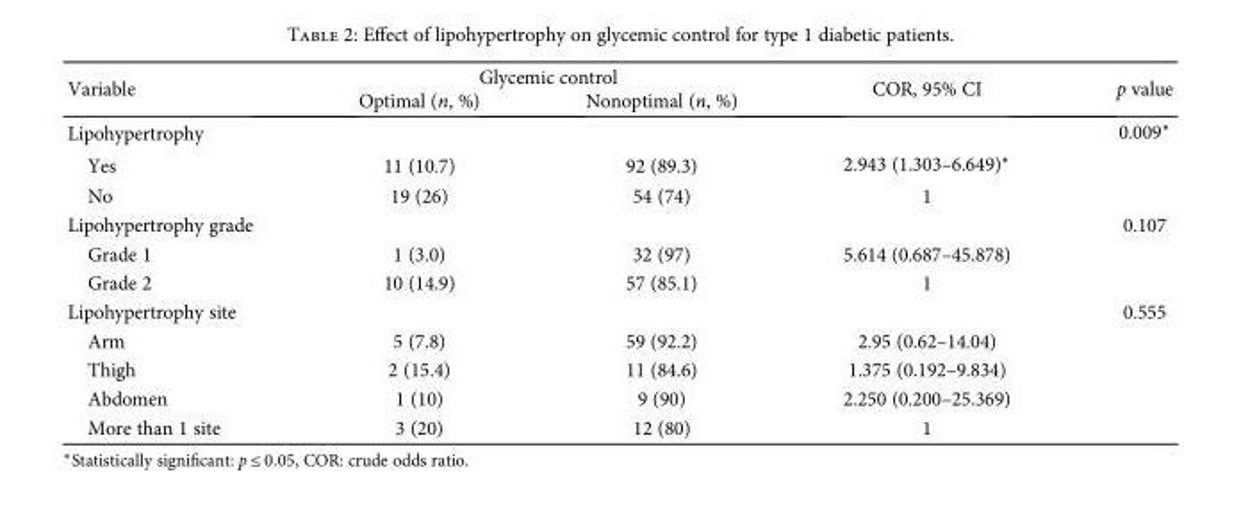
<table><thead><tr><td rowspan="2">Variable</td><td colspan="2">Glycemic control</td><td rowspan="2">COR, 95% CI</td><td rowspan="2">p value</td></tr><tr><td>Optimal (n, %)</td><td>Nonoptimal (n, %)</td></tr></thead><tbody><tr><td>Lipohypertrophy</td><td></td><td></td><td></td><td>0.009∗</td></tr><tr><td>Yes</td><td>11 (10.7)</td><td>92 (89.3)</td><td>2.943 (1.303–6.649)∗</td><td></td></tr><tr><td>No</td><td>19 (26)</td><td>54 (74)</td><td>1</td><td></td></tr><tr><td>Lipohypertrophy grade</td><td></td><td></td><td></td><td>0.107</td></tr><tr><td>Grade 1</td><td>1 (3.0)</td><td>32 (97)</td><td>5.614 (0.687–45.878)</td><td></td></tr><tr><td>Grade 2</td><td>10 (14.9)</td><td>57 (85.1)</td><td>1</td><td></td></tr><tr><td>Lipohypertrophy site</td><td></td><td></td><td></td><td>0.555</td></tr><tr><td>Arm</td><td>5 (7.8)</td><td>59 (92.2)</td><td>2.95 (0.62–14.04)</td><td></td></tr><tr><td>Thigh</td><td>2 (15.4)</td><td>11 (84.6)</td><td>1.375 (0.192–9.834)</td><td></td></tr><tr><td>Abdomen</td><td>1 (10)</td><td>9 (90)</td><td>2.250 (0.200–25.369)</td><td></td></tr><tr><td>More than 1 site</td><td>3 (20)</td><td>12 (80)</td><td>1</td><td></td></tr></tbody></table>